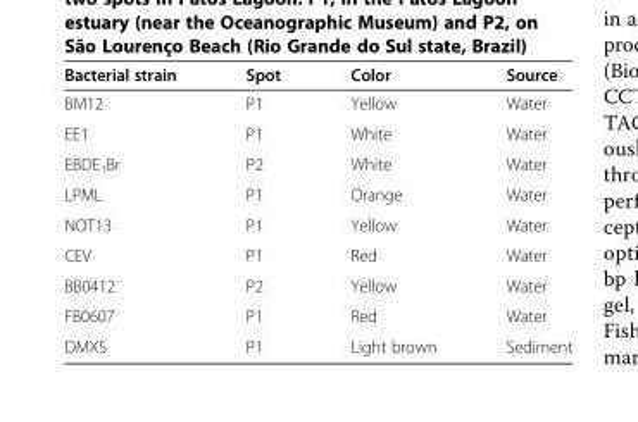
<table><thead><tr><td>Bacterial strain</td><td>Spot</td><td>Color</td><td>Source</td></tr></thead><tbody><tr><td>BM12</td><td>P1</td><td>Yellow</td><td>Water</td></tr><tr><td>EE1</td><td>P1</td><td>White</td><td>Water</td></tr><tr><td>EBDE<sub>1</sub>Br</td><td>P2</td><td>White</td><td>Water</td></tr><tr><td>LPML</td><td>P1</td><td>Orange</td><td>Water</td></tr><tr><td>NOT13</td><td>P1</td><td>Yellow</td><td>Water</td></tr><tr><td>CEV</td><td>P1</td><td>Red</td><td>Water</td></tr><tr><td>BB0412</td><td>P2</td><td>Yellow</td><td>Water</td></tr><tr><td>FB0607</td><td>P1</td><td>Red</td><td>Water</td></tr><tr><td>DMXS</td><td>P1</td><td>Light brown</td><td>Sediment</td></tr></tbody></table>